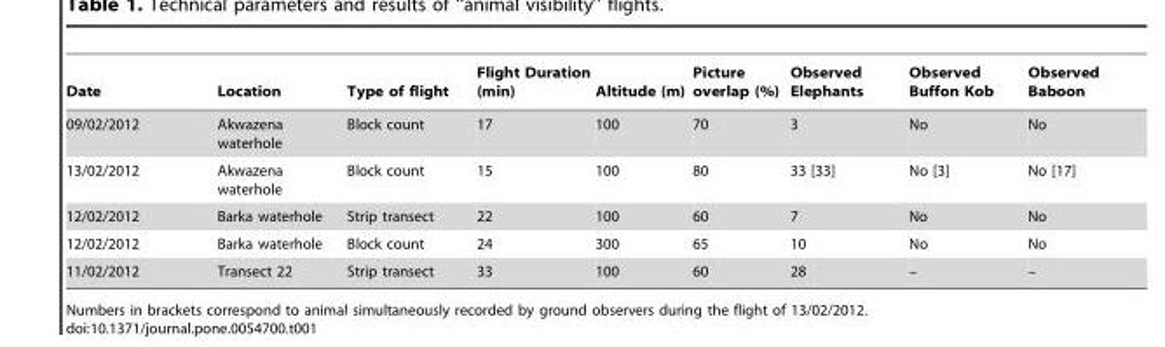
<table><thead><tr><td>Date</td><td>Location</td><td>Type of flight</td><td>Flight Duration (min)</td><td>Altitude (m)</td><td>Picture overlap (%)</td><td>Observed Elephants</td><td>Observed Buffon Kob</td><td>Observed Baboon</td></tr></thead><tbody><tr><td>09/02/2012</td><td>Akwazena waterhole</td><td>Block count</td><td>17</td><td>100</td><td>70</td><td>3</td><td>No</td><td>No</td></tr><tr><td>13/02/2012</td><td>Akwazena waterhole</td><td>Block count</td><td>15</td><td>100</td><td>80</td><td>33 [33]</td><td>No [3]</td><td>No [17]</td></tr><tr><td>12/02/2012</td><td>Barka waterhole</td><td>Strip transect</td><td>22</td><td>100</td><td>60</td><td>7</td><td>No</td><td>No</td></tr><tr><td>12/02/2012</td><td>Barka waterhole</td><td>Block count</td><td>24</td><td>300</td><td>65</td><td>10</td><td>No</td><td>No</td></tr><tr><td>11/02/2012</td><td>Transect 22</td><td>Strip transect</td><td>33</td><td>100</td><td>60</td><td>28</td><td>–</td><td>–</td></tr></tbody></table>